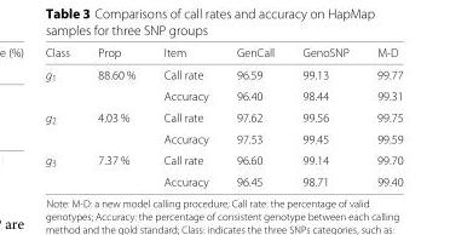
<table><thead><tr><td>Class</td><td>Prop</td><td>Item</td><td>GenCall</td><td>GenoSNP</td><td>M-D</td></tr></thead><tbody><tr><td rowspan="2">g<sub>1</sub></td><td>88.60 %</td><td>Call rate</td><td>96.59</td><td>99.13</td><td>99.77</td></tr><tr><td></td><td>Accuracy</td><td>96.40</td><td>98.44</td><td>99.31</td></tr><tr><td rowspan="2">g<sub>2</sub></td><td>4.03 %</td><td>Call rate</td><td>97.62</td><td>99.56</td><td>99.75</td></tr><tr><td></td><td>Accuracy</td><td>97.53</td><td>99.45</td><td>99.59</td></tr><tr><td rowspan="2">g<sub>3</sub></td><td>7.37 %</td><td>Call rate</td><td>96.60</td><td>99.14</td><td>99.70</td></tr><tr><td></td><td>Accuracy</td><td>96.45</td><td>98.71</td><td>99.40</td></tr></tbody></table>